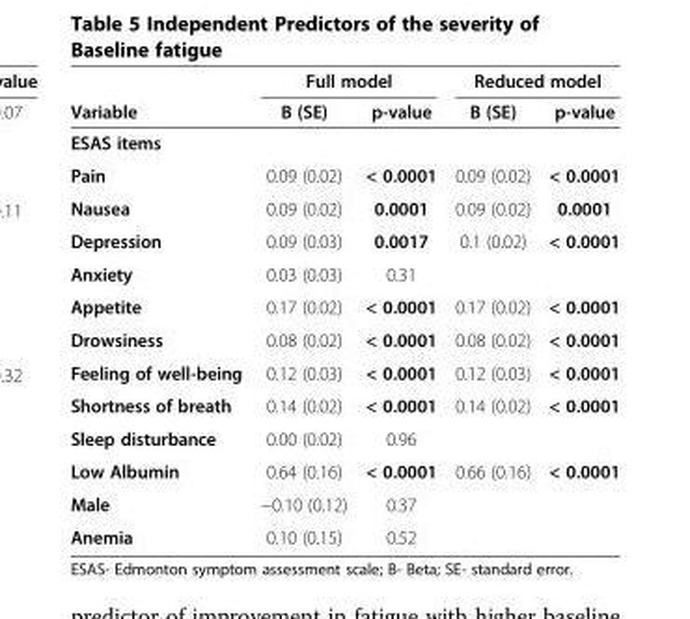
<table><thead><tr><td rowspan="2">Variable</td><td colspan="2">Full model</td><td colspan="2">Reduced model</td></tr><tr><td>B (SE)</td><td>p-value</td><td>B (SE)</td><td>p-value</td></tr></thead><tbody><tr><td colspan="5">ESAS items</td></tr><tr><td>Pain</td><td>0.09 (0.02)</td><td>&lt; 0.0001</td><td>0.09 (0.02)</td><td>&lt; 0.0001</td></tr><tr><td>Nausea</td><td>0.09 (0.02)</td><td>0.0001</td><td>0.09 (0.02)</td><td>0.0001</td></tr><tr><td>Depression</td><td>0.09 (0.03)</td><td>0.0017</td><td>0.1 (0.02)</td><td>&lt; 0.0001</td></tr><tr><td>Anxiety</td><td>0.03 (0.03)</td><td>0.31</td><td></td><td></td></tr><tr><td>Appetite</td><td>0.17 (0.02)</td><td>&lt; 0.0001</td><td>0.17 (0.02)</td><td>&lt; 0.0001</td></tr><tr><td>Drowsiness</td><td>0.08 (0.02)</td><td>&lt; 0.0001</td><td>0.08 (0.02)</td><td>&lt; 0.0001</td></tr><tr><td>Feeling of well-being</td><td>0.12 (0.03)</td><td>&lt; 0.0001</td><td>0.12 (0.03)</td><td>&lt; 0.0001</td></tr><tr><td>Shortness of breath</td><td>0.14 (0.02)</td><td>&lt; 0.0001</td><td>0.14 (0.02)</td><td>&lt; 0.0001</td></tr><tr><td>Sleep disturbance</td><td>0.00 (0.02)</td><td>0.96</td><td></td><td></td></tr><tr><td>Low Albumin</td><td>0.64 (0.16)</td><td>&lt; 0.0001</td><td>0.66 (0.16)</td><td>&lt; 0.0001</td></tr><tr><td>Male</td><td>−0.10 (0.12)</td><td>0.37</td><td></td><td></td></tr><tr><td>Anemia</td><td>0.10 (0.15)</td><td>0.52</td><td></td><td></td></tr></tbody></table>